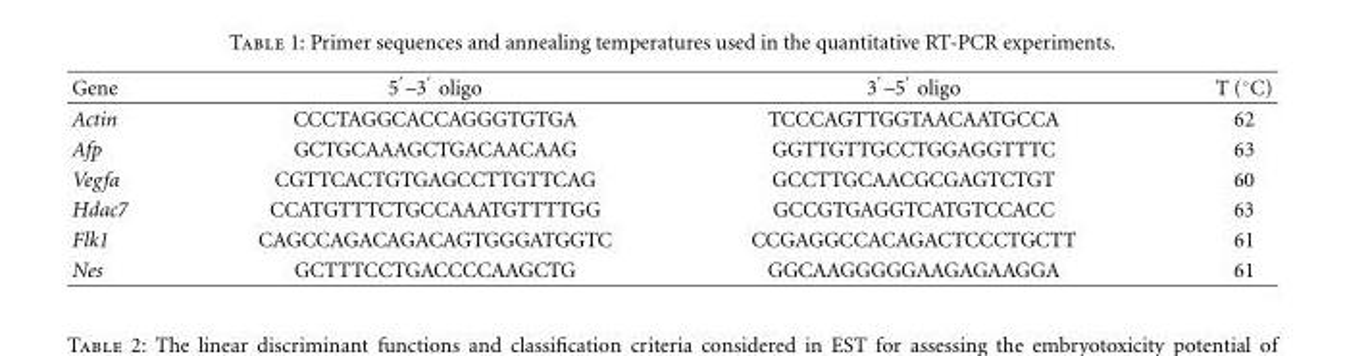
<table><thead><tr><td>Gene</td><td>5 ′–3 ′ oligo</td><td>3 ′–5 ′ oligo</td><td>T (◦C)</td></tr></thead><tbody><tr><td>Actin</td><td>CCCTAGGCACCAGGGTGTGA</td><td>TCCCAGTTGGTAACAATGCCA</td><td>62</td></tr><tr><td>Afp</td><td>GCTGCAAAGCTGACAACAAG</td><td>GGTTGTTGCCTGGAGGTTTC</td><td>63</td></tr><tr><td>Vegfa</td><td>CGTTCACTGTGAGCCTTGTTCAG</td><td>GCCTTGCAACGCGAGTCTGT</td><td>60</td></tr><tr><td>Hdac7</td><td>CCATGTTTCTGCCAAATGTTTTGG</td><td>GCCGTGAGGTCATGTCCACC</td><td>63</td></tr><tr><td>Flk1</td><td>CAGCCAGACAGACAGTGGGATGGTC</td><td>CCGAGGCCACAGACTCCCTGCTT</td><td>61</td></tr><tr><td>Nes</td><td>GCTTTCCTGACCCCAAGCTG</td><td>GGCAAGGGGGAAGAGAAGGA</td><td>61</td></tr></tbody></table>